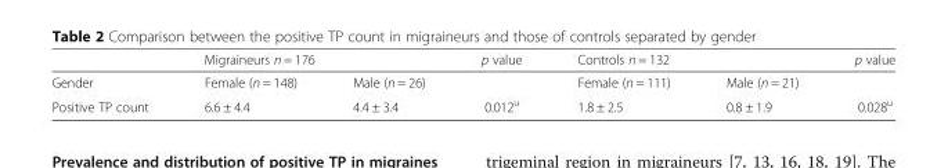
<table><thead><tr><td rowspan="2">Gender</td><td colspan="2">Migraineurs n = 176</td><td rowspan="2">p value</td><td colspan="2">Controls n = 132</td><td rowspan="2">p value</td></tr><tr><td>Female (n = 148)</td><td>Male (n = 26)</td><td>Female (n = 111)</td><td>Male (n = 21)</td></tr></thead><tbody><tr><td>Positive TP count</td><td>6.6 ± 4.4</td><td>4.4 ± 3.4</td><td>0.012<sup>u</sup></td><td>1.8 ± 2.5</td><td>0.8 ± 1.9</td><td>0.028<sup>u</sup></td></tr></tbody></table>